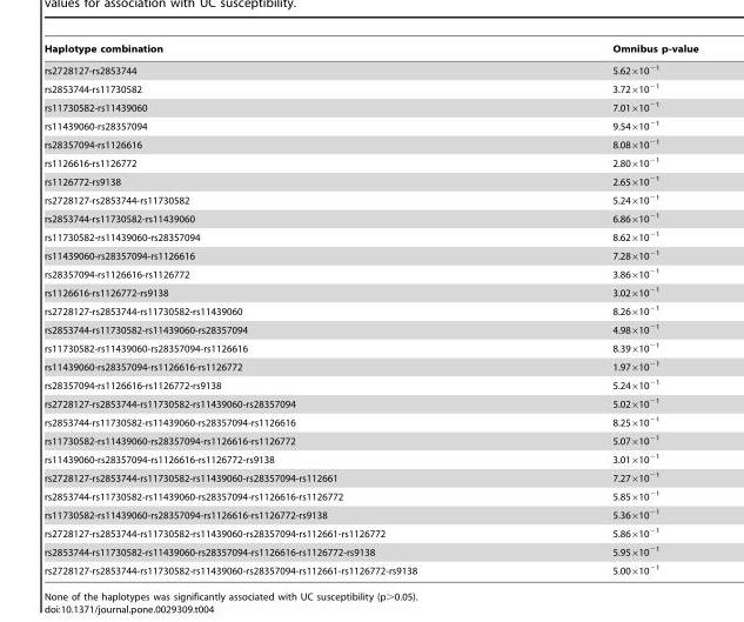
<table><thead><tr><td>Haplotype combination</td><td>Omnibus p-value</td></tr></thead><tbody><tr><td>rs2728127-rs2853744</td><td>5.62×10<sup>−1</sup></td></tr><tr><td>rs2853744-rs11730582</td><td>3.72×10<sup>−1</sup></td></tr><tr><td>rs11730582-rs11439060</td><td>7.01×10<sup>−1</sup></td></tr><tr><td>rs11439060-rs28357094</td><td>9.54×10<sup>−1</sup></td></tr><tr><td>rs28357094-rs1126616</td><td>8.08×10<sup>−1</sup></td></tr><tr><td>rs1126616-rs1126772</td><td>2.80×10<sup>−1</sup></td></tr><tr><td>rs1126772-rs9138</td><td>2.65×10<sup>−1</sup></td></tr><tr><td>rs2728127-rs2853744-rs11730582</td><td>5.24×10<sup>−1</sup></td></tr><tr><td>rs2853744-rs11730582-rs11439060</td><td>6.86×10<sup>−1</sup></td></tr><tr><td>rs11730582-rs11439060-rs28357094</td><td>8.62×10<sup>−1</sup></td></tr><tr><td>rs11439060-rs28357094-rs1126616</td><td>7.28×10<sup>−1</sup></td></tr><tr><td>rs28357094-rs1126616-rs1126772</td><td>3.86×10<sup>−1</sup></td></tr><tr><td>rs1126616-rs1126772-rs9138</td><td>3.02×10<sup>−1</sup></td></tr><tr><td>rs2728127-rs2853744-rs11730582-rs11439060</td><td>8.26×10<sup>−1</sup></td></tr><tr><td>rs2853744-rs11730582-rs11439060-rs28357094</td><td>4.98×10<sup>−1</sup></td></tr><tr><td>rs11730582-rs11439060-rs28357094-rs1126616</td><td>8.39×10<sup>−1</sup></td></tr><tr><td>rs11439060-rs28357094-rs1126616-rs1126772</td><td>1.97×10<sup>−1</sup></td></tr><tr><td>rs28357094-rs1126616-rs1126772-rs9138</td><td>5.24×10<sup>−1</sup></td></tr><tr><td>rs2728127-rs2853744-rs11730582-rs11439060-rs28357094</td><td>5.02×10<sup>−1</sup></td></tr><tr><td>rs2853744-rs11730582-rs11439060-rs28357094-rs1126616</td><td>8.25×10<sup>−1</sup></td></tr><tr><td>rs11730582-rs11439060-rs28357094-rs1126616-rs1126772</td><td>5.07×10<sup>−1</sup></td></tr><tr><td>rs11439060-rs28357094-rs1126616-rs1126772-rs9138</td><td>3.01×10<sup>−1</sup></td></tr><tr><td>rs2728127-rs2853744-rs11730582-rs11439060-rs28357094-rs112661</td><td>7.27×10<sup>−1</sup></td></tr><tr><td>rs2853744-rs11730582-rs11439060-rs28357094-rs1126616-rs1126772</td><td>5.85×10<sup>−1</sup></td></tr><tr><td>rs11730582-rs11439060-rs28357094-rs1126616-rs1126772-rs9138</td><td>5.36×10<sup>−1</sup></td></tr><tr><td>rs2728127-rs2853744-rs11730582-rs11439060-rs28357094-rs112661-rs1126772</td><td>5.86×10<sup>−1</sup></td></tr><tr><td>rs2853744-rs11730582-rs11439060-rs28357094-rs1126616-rs1126772-rs9138</td><td>5.95×10<sup>−1</sup></td></tr><tr><td>rs2728127-rs2853744-rs11730582-rs11439060-rs28357094-rs112661-rs1126772-rs9138</td><td>5.00×10<sup>−1</sup></td></tr></tbody></table>